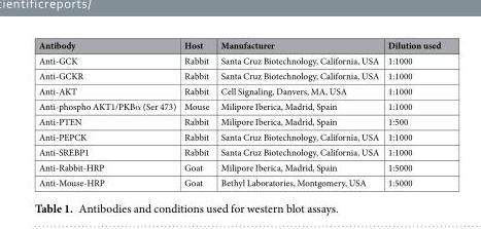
<table><thead><tr><td>Antibody</td><td>Host</td><td>Manufacturer</td><td>Dilution used</td></tr></thead><tbody><tr><td>Anti-GCK</td><td>Rabbit</td><td>Santa Cruz Biotechnology, California, USA</td><td>1:1000</td></tr><tr><td>Anti-GCKR</td><td>Rabbit</td><td>Santa Cruz Biotechnology, California, USA</td><td>1:1000</td></tr><tr><td>Anti-AKT</td><td>Rabbit</td><td>Cell Signaling, Danvers, MA, USA</td><td>1:1000</td></tr><tr><td>Anti-phospho AKT1/PKBα (Ser 473)</td><td>Mouse</td><td>Milipore Iberica, Madrid, Spain</td><td>1:1000</td></tr><tr><td>Anti-PTEN</td><td>Rabbit</td><td>Milipore Iberica, Madrid, Spain</td><td>1:500</td></tr><tr><td>Anti-PEPCK</td><td>Rabbit</td><td>Santa Cruz Biotechnology, California, USA</td><td>1:1000</td></tr><tr><td>Anti-SREBP1</td><td>Rabbit</td><td>Santa Cruz Biotechnology, California, USA</td><td>1:1000</td></tr><tr><td>Anti-Rabbit-HRP</td><td>Goat</td><td>Milipore Iberica, Madrid, Spain</td><td>1:5000</td></tr><tr><td>Anti-Mouse-HRP</td><td>Goat</td><td>Bethyl Laboratories, Montgomery, USA</td><td>1:5000</td></tr></tbody></table>